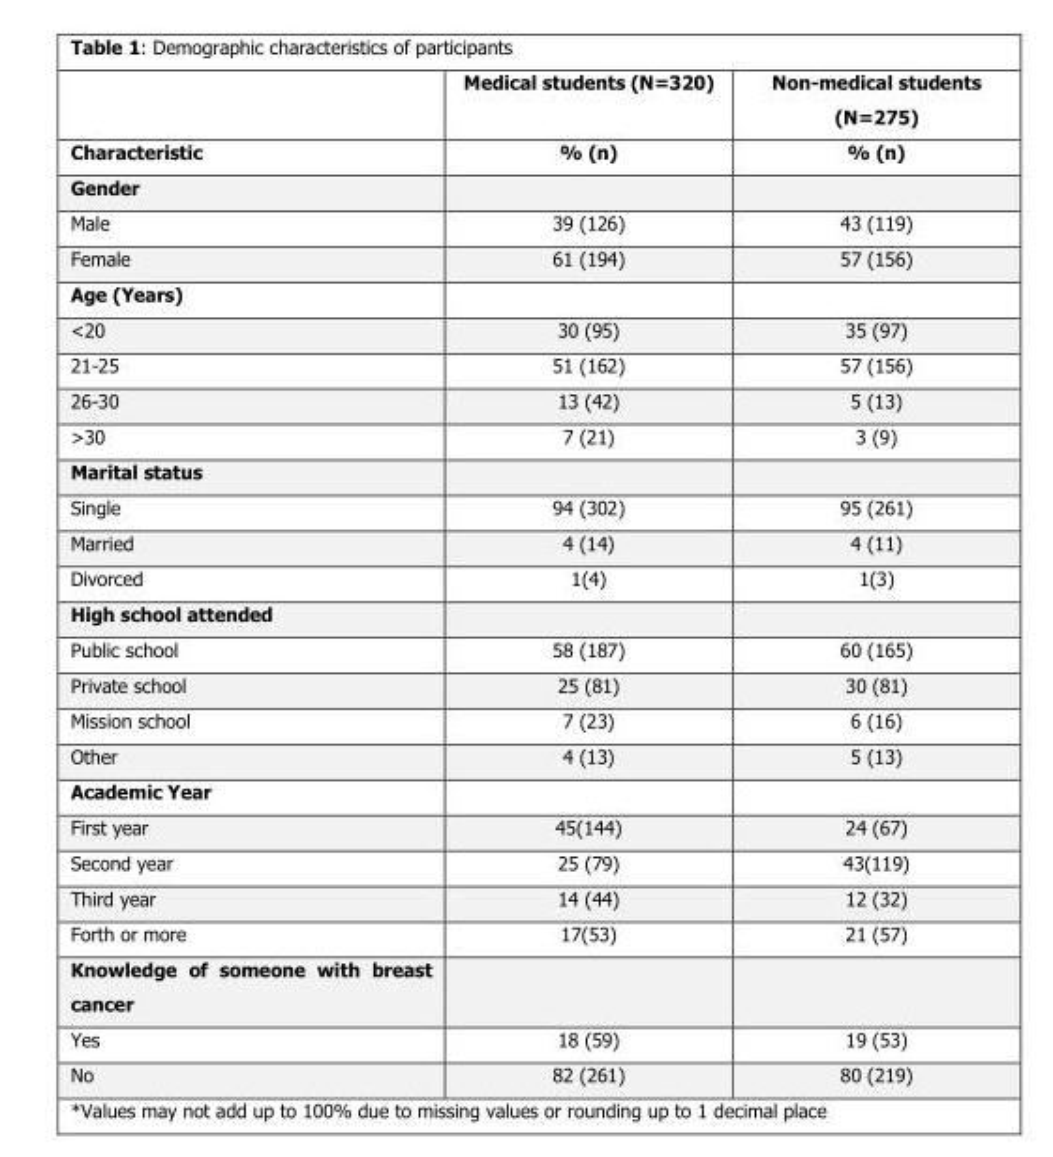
<table><thead><tr><td rowspan="2">Characteristic</td><td rowspan="2">Medical students (N=320) % (n)</td><td rowspan="2">Non-medical students (N=275) % (n)</td></tr><tr></tr></thead><tbody><tr><td colspan="3">Gender</td></tr><tr><td>Male</td><td>39 (126)</td><td>43 (119)</td></tr><tr><td>Female</td><td>61 (194)</td><td>57 (156)</td></tr><tr><td colspan="3">Age (Years)</td></tr><tr><td>&lt;20</td><td>30 (95)</td><td>35 (97)</td></tr><tr><td>21-25</td><td>51 (162)</td><td>57 (156)</td></tr><tr><td>26-30</td><td>13 (42)</td><td>5 (13)</td></tr><tr><td>&gt;30</td><td>7 (21)</td><td>3 (9)</td></tr><tr><td colspan="3">Marital status</td></tr><tr><td>Single</td><td>94 (302)</td><td>95 (261)</td></tr><tr><td>Married</td><td>4 (14)</td><td>4 (11)</td></tr><tr><td>Divorced</td><td>1(4)</td><td>1(3)</td></tr><tr><td colspan="3">High school attended</td></tr><tr><td>Public school</td><td>58 (187)</td><td>60 (165)</td></tr><tr><td>Private school</td><td>25 (81)</td><td>30 (81)</td></tr><tr><td>Mission school</td><td>7 (23)</td><td>6 (16)</td></tr><tr><td>Other</td><td>4 (13)</td><td>5 (13)</td></tr><tr><td colspan="3">Academic Year</td></tr><tr><td>First year</td><td>45(144)</td><td>24 (67)</td></tr><tr><td>Second year</td><td>25 (79)</td><td>43(119)</td></tr><tr><td>Third year</td><td>14 (44)</td><td>12 (32)</td></tr><tr><td>Forth or more</td><td>17(53)</td><td>21 (57)</td></tr><tr><td colspan="3">Knowledge of someone with breast cancer</td></tr><tr><td>Yes</td><td>18 (59)</td><td>19 (53)</td></tr><tr><td>No</td><td>82 (261)</td><td>80 (219)</td></tr></tbody></table>